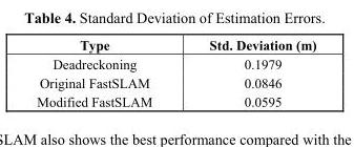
<table><thead><tr><td>Type</td><td>Std. Deviation (m)</td></tr></thead><tbody><tr><td>Deadreckoning</td><td>0.1979</td></tr><tr><td>Original FastSLAM</td><td>0.0846</td></tr><tr><td>Modified FastSLAM</td><td>0.0595</td></tr></tbody></table>